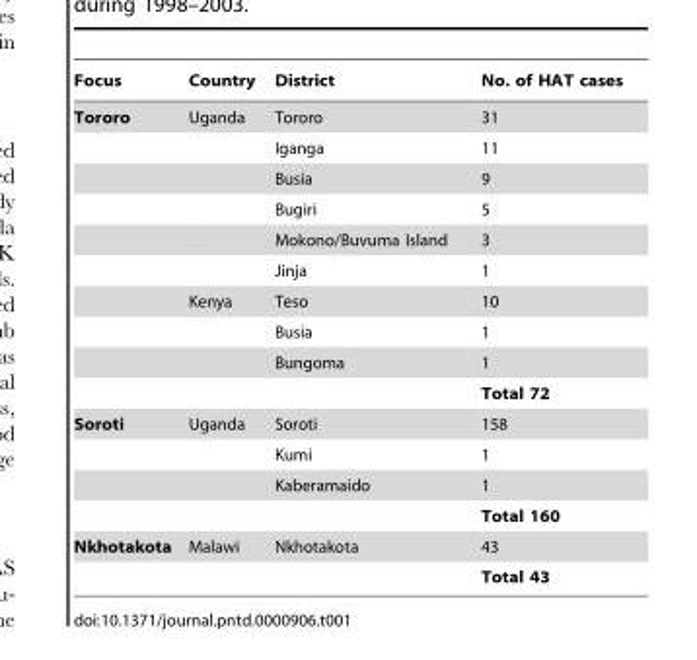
<table><thead><tr><td>Focus</td><td>Country</td><td>District</td><td>No. of HAT cases</td></tr></thead><tbody><tr><td rowspan="10">Tororo</td><td>Uganda</td><td>Tororo</td><td>31</td></tr><tr><td></td><td>Iganga</td><td>11</td></tr><tr><td></td><td>Busia</td><td>9</td></tr><tr><td></td><td>Bugiri</td><td>5</td></tr><tr><td></td><td>Mokono/Buvuma Island</td><td>3</td></tr><tr><td></td><td>Jinja</td><td>1</td></tr><tr><td>Kenya</td><td>Teso</td><td>10</td></tr><tr><td></td><td>Busia</td><td>1</td></tr><tr><td></td><td>Bungoma</td><td>1</td></tr><tr><td></td><td></td><td>Total 72</td></tr><tr><td rowspan="4">Soroti</td><td>Uganda</td><td>Soroti</td><td>158</td></tr><tr><td></td><td>Kumi</td><td>1</td></tr><tr><td></td><td>Kaberamaido</td><td>1</td></tr><tr><td></td><td></td><td>Total 160</td></tr><tr><td rowspan="2">Nkhotakota</td><td>Malawi</td><td>Nkhotakota</td><td>43</td></tr><tr><td></td><td></td><td>Total 43</td></tr></tbody></table>